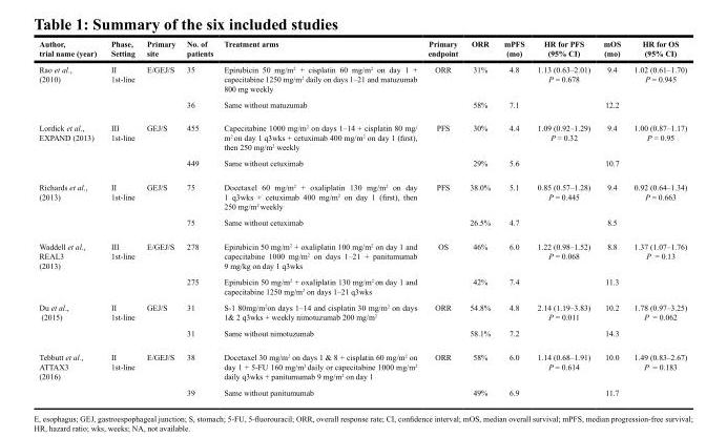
<table><thead><tr><td>Author, trial name (year)</td><td>Phase, Setting</td><td>Primary site</td><td>No. of patients</td><td>Treatment arms</td><td>Primary endpoint</td><td>ORR</td><td>mPFS (mo)</td><td>HR for PFS (95% CI)</td><td>mOS (mo)</td><td>HR for OS (95% CI)</td></tr></thead><tbody><tr><td rowspan="2">Rao et al., (2010)</td><td>II 1st-line</td><td>E/GEJ/S</td><td>35</td><td>Epirubicin 50 mg/m<sup>2</sup> + cisplatin 60 mg/m<sup>2</sup> on day 1 + capecitabine 1250 mg/m<sup>2</sup> daily on days 1–21 and matuzumab 800 mg weekly</td><td>ORR</td><td>31%</td><td>4.8</td><td>1.13 (0.63–2.01) P = 0.678</td><td>9.4</td><td>1.02 (0.61–1.70) P = 0.945</td></tr><tr><td></td><td></td><td>36</td><td>Same without matuzumab</td><td></td><td>58%</td><td>7.1</td><td></td><td>12.2</td><td></td></tr><tr><td rowspan="2">Lordick et al., EXPAND (2013)</td><td>III 1st-line</td><td>GEJ/S</td><td>455</td><td>Capecitabine 1000 mg/m<sup>2</sup> on days 1–14 + cisplatin 80 mg/ m<sup>2</sup> on day 1 q3wks + cetuximab 400 mg/m<sup>2</sup> on day 1 (first), then 250 mg/m<sup>2</sup> weekly</td><td>PFS</td><td>30%</td><td>4.4</td><td>1.09 (0.92–1.29) P = 0.32</td><td>9.4</td><td>1.00 (0.87–1.17) P = 0.95</td></tr><tr><td></td><td></td><td>449</td><td>Same without cetuximab</td><td></td><td>29%</td><td>5.6</td><td></td><td>10.7</td><td></td></tr><tr><td rowspan="2">Richards et al., (2013)</td><td>II 1st-line</td><td>GEJ/S</td><td>75</td><td>Docetaxel 60 mg/m<sup>2</sup> + oxaliplatin 130 mg/m<sup>2</sup> on day 1 q3wks + cetuximab 400 mg/m<sup>2</sup> on day 1 (first), then 250 mg/m<sup>2</sup> weekly</td><td>PFS</td><td>38.0%</td><td>5.1</td><td>0.85 (0.57–1.28) P = 0.445</td><td>9.4</td><td>0.92 (0.64–1.34) P = 0.663</td></tr><tr><td></td><td></td><td>75</td><td>Same without cetuximab</td><td></td><td>26.5%</td><td>4.7</td><td></td><td>8.5</td><td></td></tr><tr><td rowspan="2">Waddell et al., REAL3 (2013)</td><td>III 1st-line</td><td>E/GEJ/S</td><td>278</td><td>Epirubicin 50 mg/m<sup>2</sup> + oxaliplatin 100 mg/m<sup>2</sup> on day 1 and capecitabine 1000 mg/m<sup>2</sup> on days 1–21 + panitumumab 9 mg/kg on day 1 q3wks</td><td>OS</td><td>46%</td><td>6.0</td><td>1.22 (0.98–1.52) P = 0.068</td><td>8.8</td><td>1.37 (1.07–1.76) P = 0.13</td></tr><tr><td></td><td></td><td>275</td><td>Epirubicin 50 mg/m<sup>2</sup> + oxaliplatin 130 mg/m<sup>2</sup> on day 1 and capecitabine 1250 mg/m<sup>2</sup> on days 1–21 q3wks</td><td></td><td>42%</td><td>7.4</td><td></td><td>11.3</td><td></td></tr><tr><td rowspan="2">Du et al., (2015)</td><td>II 1st-line</td><td>GEJ/S</td><td>31</td><td>S-1 80mg/m<sup>2</sup>on days 1–14 and cisplatin 30 mg/m<sup>2</sup> on days 1&amp; 2 q3wks + weekly nimotuzumab 200 mg/m<sup>2</sup></td><td>ORR</td><td>54.8%</td><td>4.8</td><td>2.14 (1.19–3.83) P = 0.011</td><td>10.2</td><td>1.78 (0.97–3.25) P = 0.062</td></tr><tr><td></td><td></td><td>31</td><td>Same without nimotuzumab</td><td></td><td>58.1%</td><td>7.2</td><td></td><td>14.3</td><td></td></tr><tr><td rowspan="2">Tebbutt et al., ATTAX3 (2016)</td><td>II 1st-line</td><td>E/GEJ/S</td><td>38</td><td>Docetaxel 30 mg/m<sup>2</sup> on days 1 &amp; 8 + cisplatin 60 mg/m<sup>2</sup> on day 1 + 5-FU 160 mg/m<sup>2</sup> daily or capecitabine 1000 mg/m<sup>2</sup> daily q3wks + panitumumab 9 mg/m<sup>2</sup> on day 1</td><td>ORR</td><td>58%</td><td>6.0</td><td>1.14 (0.68–1.91) P = 0.614</td><td>10.0</td><td>1.49 (0.83–2.67) P = 0.183</td></tr><tr><td></td><td></td><td>39</td><td>Same without panitumumab</td><td></td><td>49%</td><td>6.9</td><td></td><td>11.7</td><td></td></tr></tbody></table>